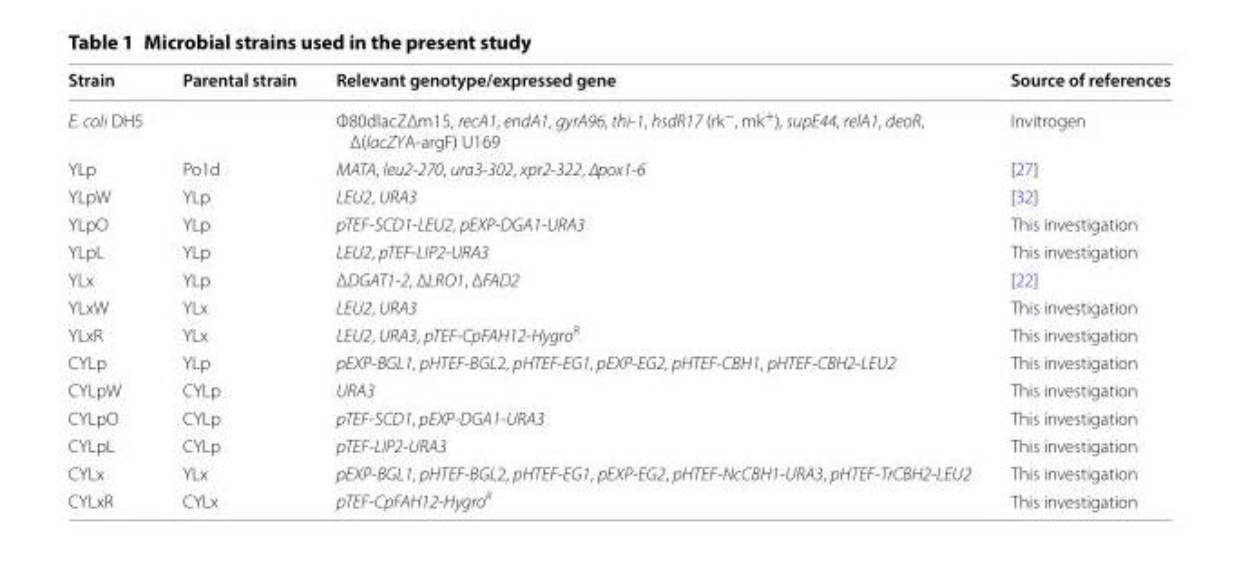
<table><thead><tr><td>Strain</td><td>Parental strain</td><td>Relevant genotype/expressed gene</td><td>Source of references</td></tr></thead><tbody><tr><td>E. coli DH5</td><td></td><td>Φ80dlacZΔm15, recA1, endA1, gyrA96, thi‑1, hsdR17 (rk<sup>−</sup>, mk<sup>+</sup>), supE44, relA1, deoR, Δ(lacZYA‑argF) U169</td><td>Invitrogen</td></tr><tr><td>YLp</td><td>Po1d</td><td>MATA , leu2‑270, ura3‑302, xpr2‑322, ∆pox1‑6</td><td>[27]</td></tr><tr><td>YLpW</td><td>YLp</td><td>LEU2, URA3</td><td>[32]</td></tr><tr><td>YLpO</td><td>YLp</td><td>pTEF‑SCD1‑LEU2, pEXP‑DGA1‑URA3</td><td>This investigation</td></tr><tr><td>YLpL</td><td>YLp</td><td>LEU2, pTEF‑LIP2‑URA3</td><td>This investigation</td></tr><tr><td>YLx</td><td>YLp</td><td>ΔDGAT1‑2, ΔLRO1, ΔFAD2</td><td>[22]</td></tr><tr><td>YLxW</td><td>YLx</td><td>LEU2, URA3</td><td>This investigation</td></tr><tr><td>YLxR</td><td>YLx</td><td>LEU2, URA3, pTEF‑CpFAH12‑Hygro<sup>R</sup></td><td>This investigation</td></tr><tr><td>CYLp</td><td>YLp</td><td>pEXP‑BGL1, pHTEF‑BGL2, pHTEF‑EG1, pEXP‑EG2, pHTEF‑CBH1, pHTEF‑CBH2‑LEU2</td><td>This investigation</td></tr><tr><td>CYLpW</td><td>CYLp</td><td>URA3</td><td>This investigation</td></tr><tr><td>CYLpO</td><td>CYLp</td><td>pTEF‑SCD1, pEXP‑DGA1‑URA3</td><td>This investigation</td></tr><tr><td>CYLpL</td><td>CYLp</td><td>pTEF‑LIP2‑URA3</td><td>This investigation</td></tr><tr><td>CYLx</td><td>YLx</td><td>pEXP‑BGL1, pHTEF‑BGL2, pHTEF‑EG1, pEXP‑EG2, pHTEF‑NcCBH1‑URA3, pHTEF‑TrCBH2‑LEU2</td><td>This investigation</td></tr><tr><td>CYLxR</td><td>CYLx</td><td>pTEF‑CpFAH12‑Hygro<sup>R</sup></td><td>This investigation</td></tr></tbody></table>